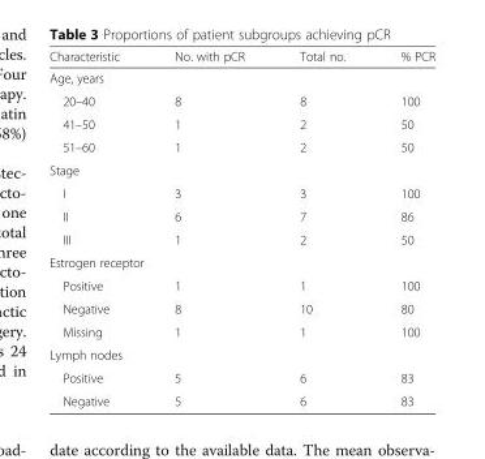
<table><thead><tr><td>Characteristic</td><td>No. with pCR</td><td>Total no.</td><td>% PCR</td></tr></thead><tbody><tr><td colspan="4">Age, years</td></tr><tr><td>20–40</td><td>8</td><td>8</td><td>100</td></tr><tr><td>41–50</td><td>1</td><td>2</td><td>50</td></tr><tr><td>51–60</td><td>1</td><td>2</td><td>50</td></tr><tr><td colspan="4">Stage</td></tr><tr><td>I</td><td>3</td><td>3</td><td>100</td></tr><tr><td>II</td><td>6</td><td>7</td><td>86</td></tr><tr><td>III</td><td>1</td><td>2</td><td>50</td></tr><tr><td colspan="4">Estrogen receptor</td></tr><tr><td>Positive</td><td>1</td><td>1</td><td>100</td></tr><tr><td>Negative</td><td>8</td><td>10</td><td>80</td></tr><tr><td>Missing</td><td>1</td><td>1</td><td>100</td></tr><tr><td colspan="4">Lymph nodes</td></tr><tr><td>Positive</td><td>5</td><td>6</td><td>83</td></tr><tr><td>Negative</td><td>5</td><td>6</td><td>83</td></tr></tbody></table>